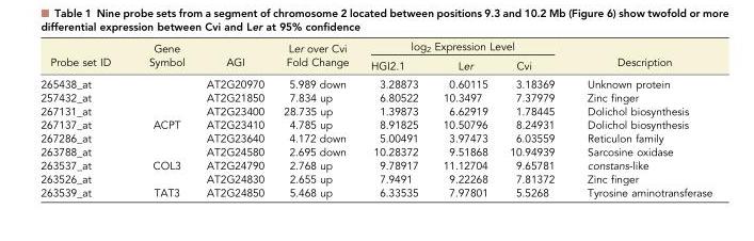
<table><thead><tr><td rowspan="2">Probe set ID</td><td rowspan="2">Gene Symbol</td><td rowspan="2">AGI</td><td rowspan="2">Ler over Cvi Fold Change</td><td colspan="3">log<sub>2</sub> Expression Level</td><td rowspan="2">Description</td></tr><tr><td>HGI2.1</td><td>Ler</td><td>Cvi</td></tr></thead><tbody><tr><td>265438_at</td><td></td><td>AT2G20970</td><td>5.989 down</td><td>3.28873</td><td>0.60115</td><td>3.18369</td><td>Unknown protein</td></tr><tr><td>257432_at</td><td></td><td>AT2G21850</td><td>7.834 up</td><td>6.80522</td><td>10.3497</td><td>7.37979</td><td>Zinc finger</td></tr><tr><td>267131_at</td><td></td><td>AT2G23400</td><td>28.735 up</td><td>1.39873</td><td>6.62919</td><td>1.78445</td><td>Dolichol biosynthesis</td></tr><tr><td>267137_at</td><td>ACPT</td><td>AT2G23410</td><td>4.785 up</td><td>8.91825</td><td>10.50796</td><td>8.24931</td><td>Dolichol biosynthesis</td></tr><tr><td>267286_at</td><td></td><td>AT2G23640</td><td>4.172 down</td><td>5.00491</td><td>3.97473</td><td>6.03559</td><td>Reticulon family</td></tr><tr><td>263788_at</td><td></td><td>AT2G24580</td><td>2.695 down</td><td>10.28372</td><td>9.51868</td><td>10.94939</td><td>Sarcosine oxidase</td></tr><tr><td>263537_at</td><td>COL3</td><td>AT2G24790</td><td>2.768 up</td><td>9.78917</td><td>11.12704</td><td>9.65781</td><td>constans-like</td></tr><tr><td>263526_at</td><td></td><td>AT2G24830</td><td>2.655 up</td><td>7.9491</td><td>9.22268</td><td>7.81372</td><td>Zinc finger</td></tr><tr><td>263539_at</td><td>TAT3</td><td>AT2G24850</td><td>5.468 up</td><td>6.33535</td><td>7.97801</td><td>5.5268</td><td>Tyrosine aminotransferase</td></tr></tbody></table>